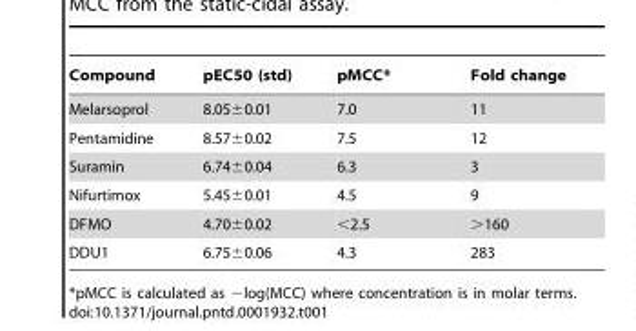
<table><thead><tr><td>Compound</td><td>pEC50 (std)</td><td>pMCC*</td><td>Fold change</td></tr></thead><tbody><tr><td>Melarsoprol</td><td>8.05±0.01</td><td>7.0</td><td>11</td></tr><tr><td>Pentamidine</td><td>8.57±0.02</td><td>7.5</td><td>12</td></tr><tr><td>Suramin</td><td>6.74±0.04</td><td>6.3</td><td>3</td></tr><tr><td>Nifurtimox</td><td>5.45±0.01</td><td>4.5</td><td>9</td></tr><tr><td>DFMO</td><td>4.70±0.02</td><td>&lt;2.5</td><td>&gt;160</td></tr><tr><td>DDU1</td><td>6.75±0.06</td><td>4.3</td><td>283</td></tr></tbody></table>